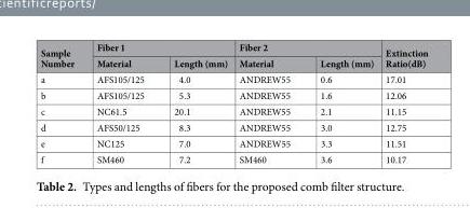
<table><thead><tr><td rowspan="2">Sample Number</td><td colspan="2">Fiber 1</td><td colspan="2">Fiber 2</td><td rowspan="2">Extinction Ratio(dB)</td></tr><tr><td>Material</td><td>Length (mm)</td><td>Material</td><td>Length (mm)</td></tr></thead><tbody><tr><td>a</td><td>AFS105/125</td><td>4.0</td><td>ANDREW55</td><td>0.6</td><td>17.01</td></tr><tr><td>b</td><td>AFS105/125</td><td>5.3</td><td>ANDREW55</td><td>1.6</td><td>12.06</td></tr><tr><td>c</td><td>NC61.5</td><td>20.1</td><td>ANDREW55</td><td>2.1</td><td>11.15</td></tr><tr><td>d</td><td>AFS50/125</td><td>8.3</td><td>ANDREW55</td><td>3.0</td><td>12.75</td></tr><tr><td>e</td><td>NC125</td><td>7.0</td><td>ANDREW55</td><td>3.3</td><td>11.51</td></tr><tr><td>f</td><td>SM460</td><td>7.2</td><td>SM460</td><td>3.6</td><td>10.17</td></tr></tbody></table>